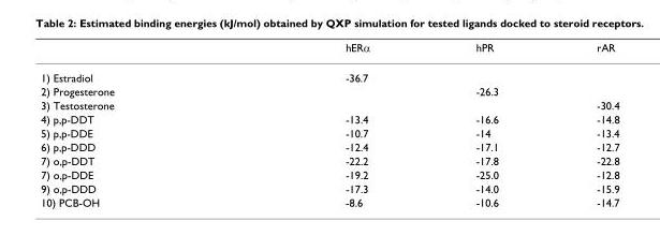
<table><thead><tr><td></td><td>hERα</td><td>hPR</td><td>rAR</td></tr></thead><tbody><tr><td>1) Estradiol</td><td>-36.7</td><td></td><td></td></tr><tr><td>2) Progesterone</td><td></td><td>-26.3</td><td></td></tr><tr><td>3) Testosterone</td><td></td><td></td><td>-30.4</td></tr><tr><td>4) p,p-DDT</td><td>-13.4</td><td>-16.6</td><td>-14.8</td></tr><tr><td>5) p,p-DDE</td><td>-10.7</td><td>-14</td><td>-13.4</td></tr><tr><td>6) p,p-DDD</td><td>-12.4</td><td>-17.1</td><td>-12.7</td></tr><tr><td>7) o,p-DDT</td><td>-22.2</td><td>-17.8</td><td>-22.8</td></tr><tr><td>7) o,p-DDE</td><td>-19.2</td><td>-25.0</td><td>-12.8</td></tr><tr><td>9) o,p-DDD</td><td>-17.3</td><td>-14.0</td><td>-15.9</td></tr><tr><td>10) PCB-OH</td><td>-8.6</td><td>-10.6</td><td>-14.7</td></tr></tbody></table>